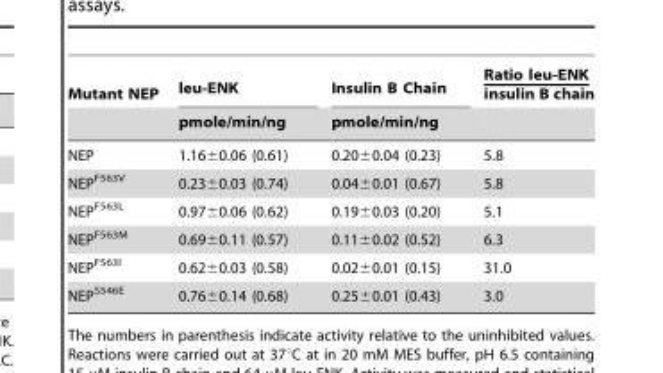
<table><thead><tr><td rowspan="2">Mutant NEP</td><td rowspan="2">leu-ENK pmole/min/ng</td><td rowspan="2">Insulin B Chain pmole/min/ng</td><td rowspan="2">Ratio leu-ENK insulin B chain</td></tr><tr></tr></thead><tbody><tr><td>NEP</td><td>1.16±0.06 (0.61)</td><td>0.20±0.04 (0.23)</td><td>5.8</td></tr><tr><td>NEP<sup>F563V</sup></td><td>0.23±0.03 (0.74)</td><td>0.04±0.01 (0.67)</td><td>5.8</td></tr><tr><td>NEP<sup>F563L</sup></td><td>0.97±0.06 (0.62)</td><td>0.19±0.03 (0.20)</td><td>5.1</td></tr><tr><td>NEP<sup>F563M</sup></td><td>0.69±0.11 (0.57)</td><td>0.11±0.02 (0.52)</td><td>6.3</td></tr><tr><td>NEP<sup>F563I</sup></td><td>0.62±0.03 (0.58)</td><td>0.02±0.01 (0.15)</td><td>31.0</td></tr><tr><td>NEP<sup>S546E</sup></td><td>0.76±0.14 (0.68)</td><td>0.25±0.01 (0.43)</td><td>3.0</td></tr></tbody></table>